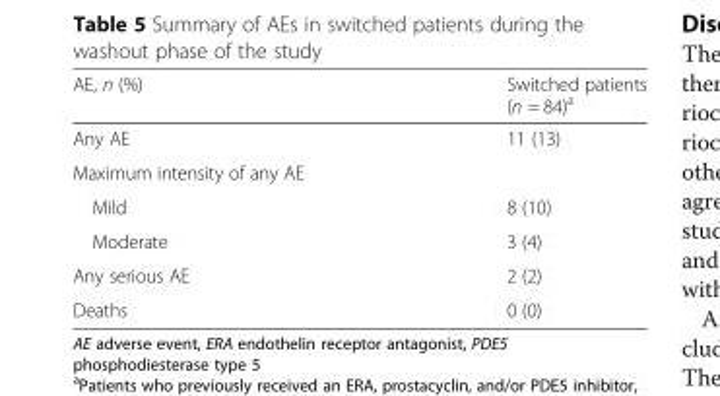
<table><thead><tr><td>AE, n (%)</td><td>Switched patients (n = 84)<sup>a</sup></td></tr></thead><tbody><tr><td>Any AE</td><td>11 (13)</td></tr><tr><td colspan="2">Maximum intensity of any AE</td></tr><tr><td>Mild</td><td>8 (10)</td></tr><tr><td>Moderate</td><td>3 (4)</td></tr><tr><td>Any serious AE</td><td>2 (2)</td></tr><tr><td>Deaths</td><td>0 (0)</td></tr></tbody></table>